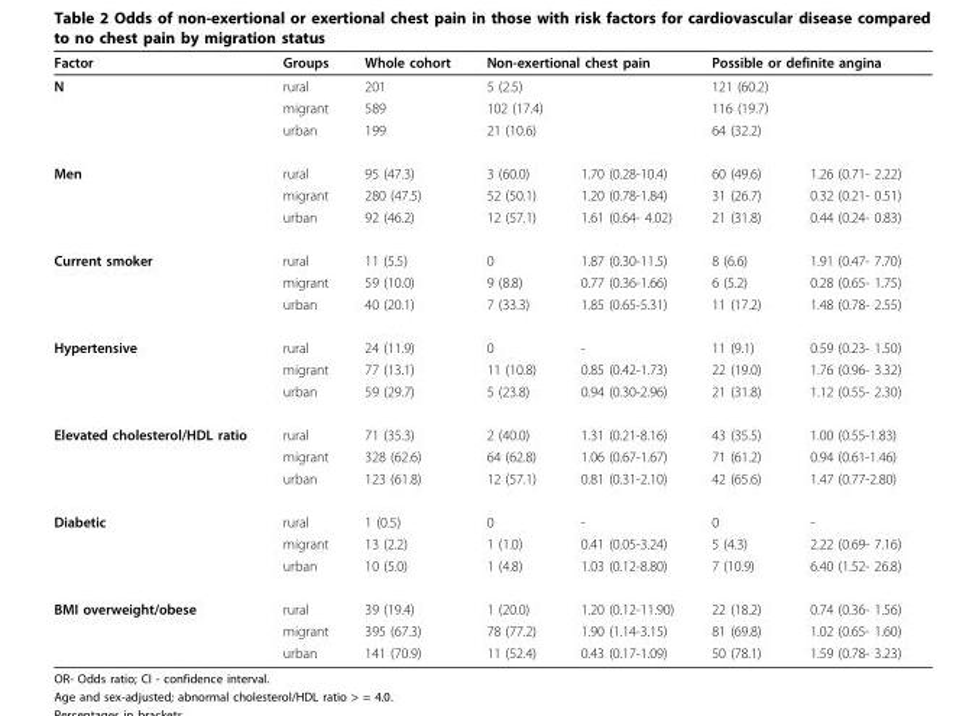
<table><thead><tr><td rowspan="2">Factor N</td><td rowspan="2">Groups rural</td><td rowspan="2">Whole cohort 201</td><td colspan="2">Non-exertional chest pain</td><td colspan="2">Possible or definite angina</td></tr><tr><td>5 (2.5)</td><td></td><td>121 (60.2)</td><td></td></tr></thead><tbody><tr><td></td><td>migrant</td><td>589</td><td>102 (17.4)</td><td></td><td>116 (19.7)</td><td></td></tr><tr><td></td><td>urban</td><td>199</td><td>21 (10.6)</td><td></td><td>64 (32.2)</td><td></td></tr><tr><td rowspan="3">Men</td><td>rural</td><td>95 (47.3)</td><td>3 (60.0)</td><td>1.70 (0.28-10.4)</td><td>60 (49.6)</td><td>1.26 (0.71- 2.22)</td></tr><tr><td>migrant</td><td>280 (47.5)</td><td>52 (50.1)</td><td>1.20 (0.78-1.84)</td><td>31 (26.7)</td><td>0.32 (0.21- 0.51)</td></tr><tr><td>urban</td><td>92 (46.2)</td><td>12 (57.1)</td><td>1.61 (0.64- 4.02)</td><td>21 (31.8)</td><td>0.44 (0.24- 0.83)</td></tr><tr><td rowspan="3">Current smoker</td><td>rural</td><td>11 (5.5)</td><td>0</td><td>1.87 (0.30-11.5)</td><td>8 (6.6)</td><td>1.91 (0.47- 7.70)</td></tr><tr><td>migrant</td><td>59 (10.0)</td><td>9 (8.8)</td><td>0.77 (0.36-1.66)</td><td>6 (5.2)</td><td>0.28 (0.65- 1.75)</td></tr><tr><td>urban</td><td>40 (20.1)</td><td>7 (33.3)</td><td>1.85 (0.65-5.31)</td><td>11 (17.2)</td><td>1.48 (0.78- 2.55)</td></tr><tr><td rowspan="3">Hypertensive</td><td>rural</td><td>24 (11.9)</td><td>0</td><td>-</td><td>11 (9.1)</td><td>0.59 (0.23- 1.50)</td></tr><tr><td>migrant</td><td>77 (13.1)</td><td>11 (10.8)</td><td>0.85 (0.42-1.73)</td><td>22 (19.0)</td><td>1.76 (0.96- 3.32)</td></tr><tr><td>urban</td><td>59 (29.7)</td><td>5 (23.8)</td><td>0.94 (0.30-2.96)</td><td>21 (31.8)</td><td>1.12 (0.55- 2.30)</td></tr><tr><td rowspan="3">Elevated cholesterol/HDL ratio</td><td>rural</td><td>71 (35.3)</td><td>2 (40.0)</td><td>1.31 (0.21-8.16)</td><td>43 (35.5)</td><td>1.00 (0.55-1.83)</td></tr><tr><td>migrant</td><td>328 (62.6)</td><td>64 (62.8)</td><td>1.06 (0.67-1.67)</td><td>71 (61.2)</td><td>0.94 (0.61-1.46)</td></tr><tr><td>urban</td><td>123 (61.8)</td><td>12 (57.1)</td><td>0.81 (0.31-2.10)</td><td>42 (65.6)</td><td>1.47 (0.77-2.80)</td></tr><tr><td rowspan="3">Diabetic</td><td>rural</td><td>1 (0.5)</td><td>0</td><td>-</td><td>0</td><td>-</td></tr><tr><td>migrant</td><td>13 (2.2)</td><td>1 (1.0)</td><td>0.41 (0.05-3.24)</td><td>5 (4.3)</td><td>2.22 (0.69- 7.16)</td></tr><tr><td>urban</td><td>10 (5.0)</td><td>1 (4.8)</td><td>1.03 (0.12-8.80)</td><td>7 (10.9)</td><td>6.40 (1.52- 26.8)</td></tr><tr><td rowspan="3">BMI overweight/obese</td><td>rural</td><td>39 (19.4)</td><td>1 (20.0)</td><td>1.20 (0.12-11.90)</td><td>22 (18.2)</td><td>0.74 (0.36- 1.56)</td></tr><tr><td>migrant</td><td>395 (67.3)</td><td>78 (77.2)</td><td>1.90 (1.14-3.15)</td><td>81 (69.8)</td><td>1.02 (0.65- 1.60)</td></tr><tr><td>urban</td><td>141 (70.9)</td><td>11 (52.4)</td><td>0.43 (0.17-1.09)</td><td>50 (78.1)</td><td>1.59 (0.78- 3.23)</td></tr></tbody></table>